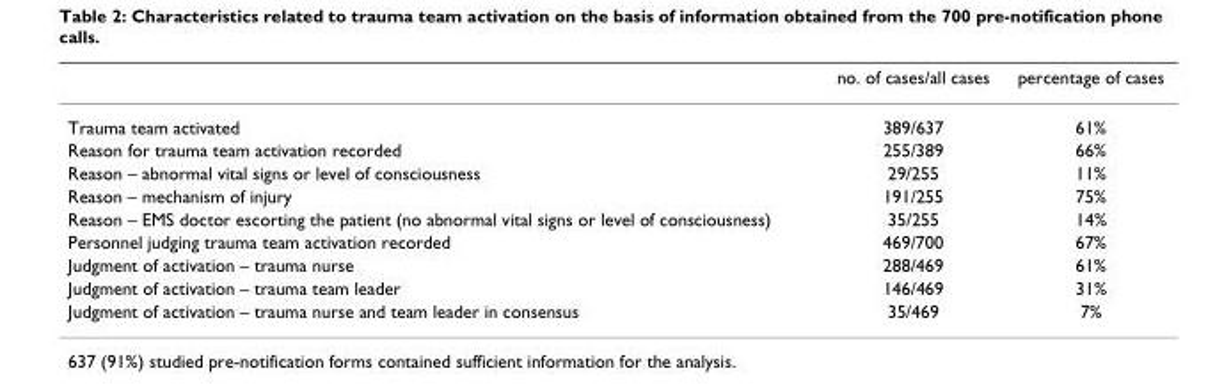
<table><thead><tr><td></td><td>no. of cases/all cases</td><td>percentage of cases</td></tr></thead><tbody><tr><td>Trauma team activated</td><td>389/637</td><td>61%</td></tr><tr><td>Reason for trauma team activation recorded</td><td>255/389</td><td>66%</td></tr><tr><td>Reason – abnormal vital signs or level of consciousness</td><td>29/255</td><td>11%</td></tr><tr><td>Reason – mechanism of injury</td><td>191/255</td><td>75%</td></tr><tr><td>Reason – EMS doctor escorting the patient (no abnormal vital signs or level of consciousness)</td><td>35/255</td><td>14%</td></tr><tr><td>Personnel judging trauma team activation recorded</td><td>469/700</td><td>67%</td></tr><tr><td>Judgment of activation – trauma nurse</td><td>288/469</td><td>61%</td></tr><tr><td>Judgment of activation – trauma team leader</td><td>146/469</td><td>31%</td></tr><tr><td>Judgment of activation – trauma nurse and team leader in consensus</td><td>35/469</td><td>7%</td></tr></tbody></table>